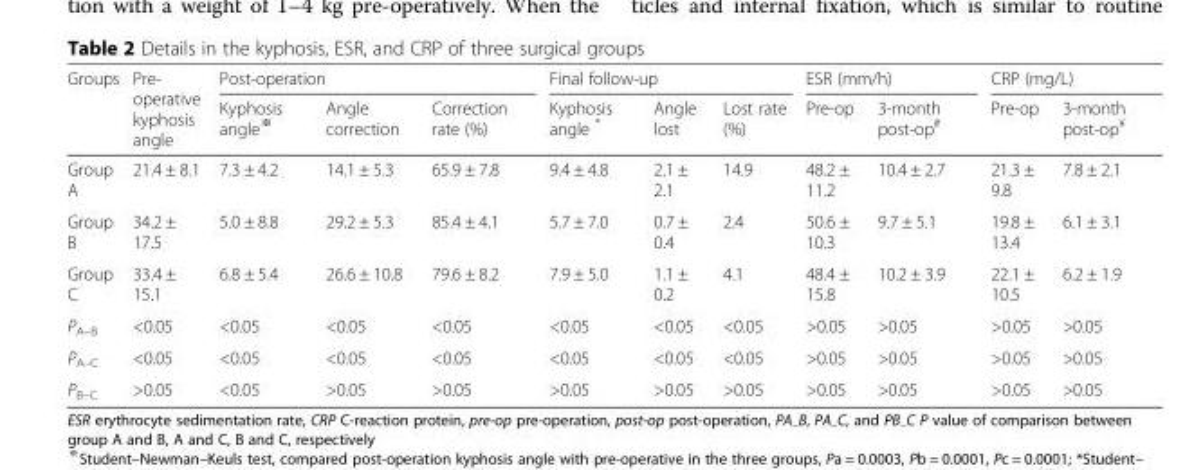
<table><thead><tr><td rowspan="2">Groups</td><td rowspan="2">Pre- operative kyphosis angle</td><td colspan="3">Post-operation</td><td colspan="3">Final follow-up</td><td colspan="2">ESR (mm/h)</td><td colspan="2">CRP (mg/L)</td></tr><tr><td>Kyphosis angle<sup>※</sup></td><td>Angle correction</td><td>Correction rate (%)</td><td>Kyphosis angle *</td><td>Angle lost</td><td>Lost rate (%)</td><td>Pre-op</td><td>3-month post-op<sup>#</sup></td><td>Pre-op</td><td>3-month post-op<sup>¥</sup></td></tr></thead><tbody><tr><td>Group A</td><td>21.4 ± 8.1</td><td>7.3 ± 4.2</td><td>14.1 ± 5.3</td><td>65.9 ± 7.8</td><td>9.4 ± 4.8</td><td>2.1 ± 2.1</td><td>14.9</td><td>48.2 ± 11.2</td><td>10.4 ± 2.7</td><td>21.3 ± 9.8</td><td>7.8 ± 2.1</td></tr><tr><td>Group B</td><td>34.2 ± 17.5</td><td>5.0 ± 8.8</td><td>29.2 ± 5.3</td><td>85.4 ± 4.1</td><td>5.7 ± 7.0</td><td>0.7 ± 0.4</td><td>2.4</td><td>50.6 ± 10.3</td><td>9.7 ± 5.1</td><td>19.8 ± 13.4</td><td>6.1 ± 3.1</td></tr><tr><td>Group C</td><td>33.4 ± 15.1</td><td>6.8 ± 5.4</td><td>26.6 ± 10.8</td><td>79.6 ± 8.2</td><td>7.9 ± 5.0</td><td>1.1 ± 0.2</td><td>4.1</td><td>48.4 ± 15.8</td><td>10.2 ± 3.9</td><td>22.1 ± 10.5</td><td>6.2 ± 1.9</td></tr><tr><td>P<sub>A–B</sub></td><td>&lt;0.05</td><td>&lt;0.05</td><td>&lt;0.05</td><td>&lt;0.05</td><td>&lt;0.05</td><td>&lt;0.05</td><td>&lt;0.05</td><td>&gt;0.05</td><td>&gt;0.05</td><td>&gt;0.05</td><td>&gt;0.05</td></tr><tr><td>P<sub>A–C</sub></td><td>&lt;0.05</td><td>&lt;0.05</td><td>&lt;0.05</td><td>&lt;0.05</td><td>&lt;0.05</td><td>&lt;0.05</td><td>&lt;0.05</td><td>&gt;0.05</td><td>&gt;0.05</td><td>&gt;0.05</td><td>&gt;0.05</td></tr><tr><td>P<sub>B–C</sub></td><td>&gt;0.05</td><td>&lt;0.05</td><td>&gt;0.05</td><td>&gt;0.05</td><td>&gt;0.05</td><td>&gt;0.05</td><td>&gt;0.05</td><td>&gt;0.05</td><td>&gt;0.05</td><td>&gt;0.05</td><td>&gt;0.05</td></tr></tbody></table>